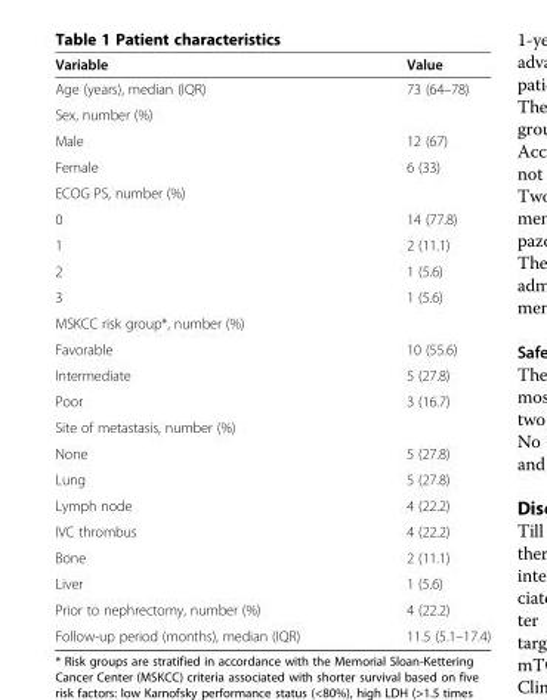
<table><thead><tr><td>Variable</td><td>Value</td></tr></thead><tbody><tr><td>Age (years), median (IQR)</td><td>73 (64–78)</td></tr><tr><td colspan="2">Sex, number (%)</td></tr><tr><td>Male</td><td>12 (67)</td></tr><tr><td>Female</td><td>6 (33)</td></tr><tr><td colspan="2">ECOG PS, number (%)</td></tr><tr><td>0</td><td>14 (77.8)</td></tr><tr><td>1</td><td>2 (11.1)</td></tr><tr><td>2</td><td>1 (5.6)</td></tr><tr><td>3</td><td>1 (5.6)</td></tr><tr><td colspan="2">MSKCC risk group*, number (%)</td></tr><tr><td>Favorable</td><td>10 (55.6)</td></tr><tr><td>Intermediate</td><td>5 (27.8)</td></tr><tr><td>Poor</td><td>3 (16.7)</td></tr><tr><td colspan="2">Site of metastasis, number (%)</td></tr><tr><td>None</td><td>5 (27.8)</td></tr><tr><td>Lung</td><td>5 (27.8)</td></tr><tr><td>Lymph node</td><td>4 (22.2)</td></tr><tr><td>IVC thrombus</td><td>4 (22.2)</td></tr><tr><td>Bone</td><td>2 (11.1)</td></tr><tr><td>Liver</td><td>1 (5.6)</td></tr><tr><td>Prior to nephrectomy, number (%)</td><td>4 (22.2)</td></tr><tr><td>Follow-up period (months), median (IQR)</td><td>11.5 (5.1–17.4)</td></tr></tbody></table>